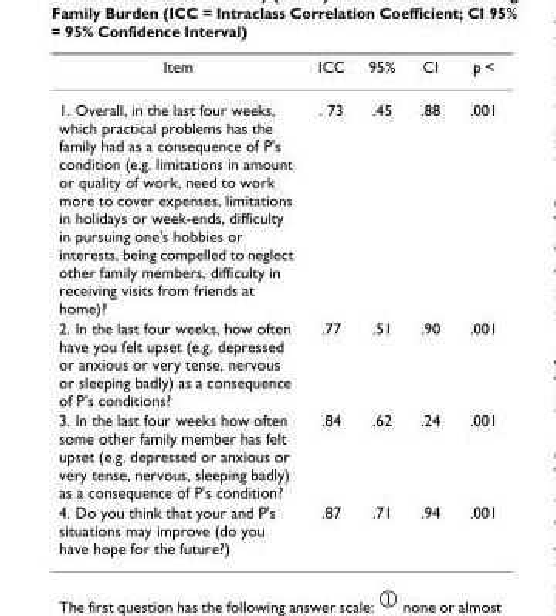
<table><thead><tr><td>Item</td><td>ICC</td><td>95%</td><td>CI</td><td>p &lt;</td></tr></thead><tbody><tr><td>1. Overall, in the last four weeks, which practical problems has the family had as a consequence of P&#x27;s condition (e.g. limitations in amount or quality of work, need to work more to cover expenses, limitations in holidays or week-ends, difficulty in pursuing one&#x27;s hobbies or interests, being compelled to neglect other family members, difficulty in receiving visits from friends at home)?</td><td>. 73</td><td>.45</td><td>.88</td><td>.001</td></tr><tr><td>2. In the last four weeks, how often have you felt upset (e.g. depressed or anxious or very tense, nervous or sleeping badly) as a consequence of P&#x27;s conditions?</td><td>.77</td><td>.51</td><td>.90</td><td>.001</td></tr><tr><td>3. In the last four weeks how often some other family member has felt upset (e.g. depressed or anxious or very tense, nervous, sleeping badly) as a consequence of P&#x27;s condition?</td><td>.84</td><td>.62</td><td>.24</td><td>.001</td></tr><tr><td>4. Do you think that your and P&#x27;s situations may improve (do you have hope for the future?)</td><td>.87</td><td>.71</td><td>.94</td><td>.001</td></tr></tbody></table>